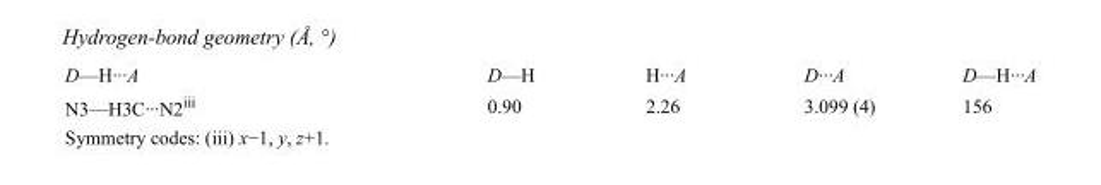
<table><tbody><tr><td>D—H···A</td><td>D—H</td><td>H···A</td><td>D···A</td><td>D—H···A</td></tr><tr><td>N3—H3C···N2<sup>iii</sup></td><td>0.90</td><td>2.26</td><td>3.099 (4)</td><td>156</td></tr></tbody></table>